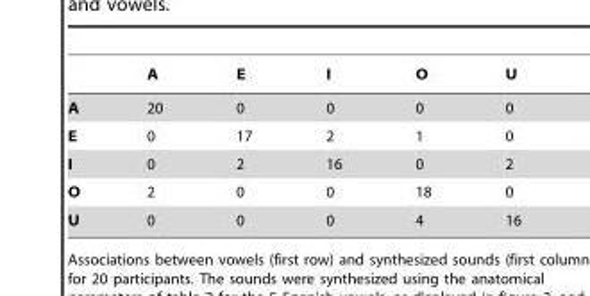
<table><thead><tr><td></td><td>A</td><td>E</td><td>I</td><td>O</td><td>U</td></tr></thead><tbody><tr><td>A</td><td>20</td><td>0</td><td>0</td><td>0</td><td>0</td></tr><tr><td>E</td><td>0</td><td>17</td><td>2</td><td>1</td><td>0</td></tr><tr><td>I</td><td>0</td><td>2</td><td>16</td><td>0</td><td>2</td></tr><tr><td>O</td><td>2</td><td>0</td><td>0</td><td>18</td><td>0</td></tr><tr><td>U</td><td>0</td><td>0</td><td>0</td><td>4</td><td>16</td></tr></tbody></table>